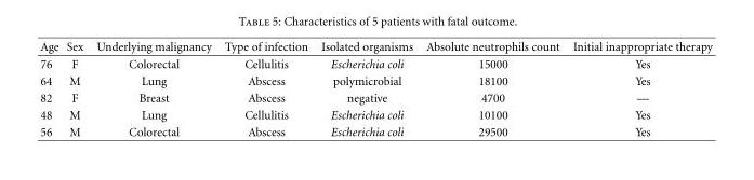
<table><thead><tr><td>Age</td><td>Sex</td><td>Underlying malignancy</td><td>Type of infection</td><td>Isolated organisms</td><td>Absolute neutrophils count</td><td>Initial inappropriate therapy</td></tr></thead><tbody><tr><td>76</td><td>F</td><td>Colorectal</td><td>Cellulitis</td><td>Escherichia coli</td><td>15000</td><td>Yes</td></tr><tr><td>64</td><td>M</td><td>Lung</td><td>Abscess</td><td>polymicrobial</td><td>18100</td><td>Yes</td></tr><tr><td>82</td><td>F</td><td>Breast</td><td>Abscess</td><td>negative</td><td>4700</td><td>—</td></tr><tr><td>48</td><td>M</td><td>Lung</td><td>Cellulitis</td><td>Escherichia coli</td><td>10100</td><td>Yes</td></tr><tr><td>56</td><td>M</td><td>Colorectal</td><td>Abscess</td><td>Escherichia coli</td><td>29500</td><td>Yes</td></tr></tbody></table>